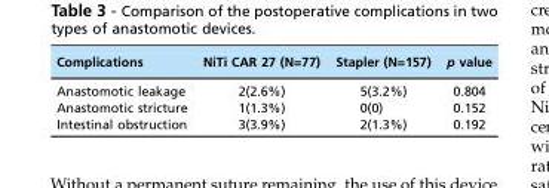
<table><thead><tr><td>Complications</td><td>NiTi CAR 27 (N=77)</td><td>Stapler (N=157)</td><td>p value</td></tr></thead><tbody><tr><td>Anastomotic leakage</td><td>2(2.6%)</td><td>5(3.2%)</td><td>0.804</td></tr><tr><td>Anastomotic stricture</td><td>1(1.3%)</td><td>0(0)</td><td>0.152</td></tr><tr><td>Intestinal obstruction</td><td>3(3.9%)</td><td>2(1.3%)</td><td>0.192</td></tr></tbody></table>